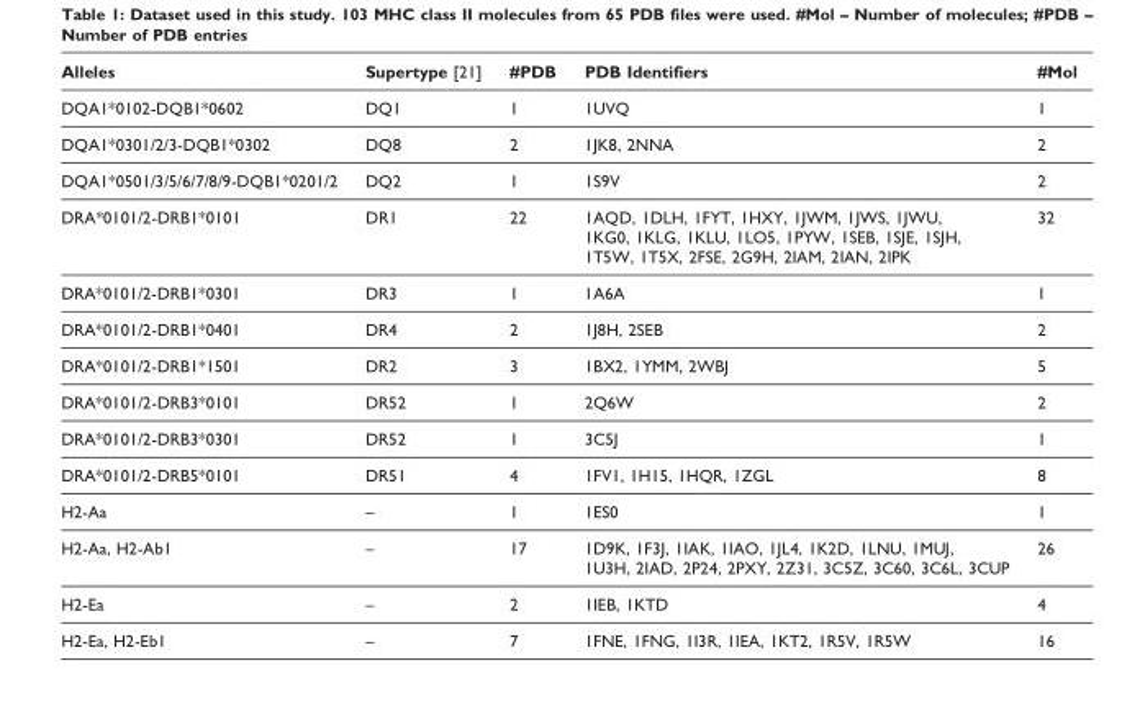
<table><thead><tr><td>Alleles</td><td>Supertype [21]</td><td>#PDB</td><td>PDB Identifiers</td><td>#Mol</td></tr></thead><tbody><tr><td>DQA1*0102-DQB1*0602</td><td>DQ1</td><td>1</td><td>1UVQ</td><td>1</td></tr><tr><td>DQA1*0301/2/3-DQB1*0302</td><td>DQ8</td><td>2</td><td>1JK8, 2NNA</td><td>2</td></tr><tr><td>DQA1*0501/3/5/6/7/8/9-DQB1*0201/2</td><td>DQ2</td><td>1</td><td>1S9V</td><td>2</td></tr><tr><td>DRA*0101/2-DRB1*0101</td><td>DR1</td><td>22</td><td>1AQD, 1DLH, 1FYT, 1HXY, 1JWM, 1JWS, 1JWU, 1KG0, 1KLG, 1KLU, 1LO5, 1PYW, 1SEB, 1SJE, 1SJH, 1T5W, 1T5X, 2FSE, 2G9H, 2IAM, 2IAN, 2IPK</td><td>32</td></tr><tr><td>DRA*0101/2-DRB1*0301</td><td>DR3</td><td>1</td><td>1A6A</td><td>1</td></tr><tr><td>DRA*0101/2-DRB1*0401</td><td>DR4</td><td>2</td><td>1J8H, 2SEB</td><td>2</td></tr><tr><td>DRA*0101/2-DRB1*1501</td><td>DR2</td><td>3</td><td>1BX2, 1YMM, 2WBJ</td><td>5</td></tr><tr><td>DRA*0101/2-DRB3*0101</td><td>DR52</td><td>1</td><td>2Q6W</td><td>2</td></tr><tr><td>DRA*0101/2-DRB3*0301</td><td>DR52</td><td>1</td><td>3C5J</td><td>1</td></tr><tr><td>DRA*0101/2-DRB5*0101</td><td>DR51</td><td>4</td><td>1FV1, 1H15, 1HQR, 1ZGL</td><td>8</td></tr><tr><td>H2-Aa</td><td>–</td><td>1</td><td>1ES0</td><td>1</td></tr><tr><td>H2-Aa, H2-Ab1</td><td>–</td><td>17</td><td>1D9K, 1F3J, 1IAK, 1IAO, 1JL4, 1K2D, 1LNU, 1MUJ, 1U3H, 2IAD, 2P24, 2PXY, 2Z31, 3C5Z, 3C60, 3C6L, 3CUP</td><td>26</td></tr><tr><td>H2-Ea</td><td>–</td><td>2</td><td>1IEB, 1KTD</td><td>4</td></tr><tr><td>H2-Ea, H2-Eb1</td><td>–</td><td>7</td><td>1FNE, 1FNG, 1I3R, 1IEA, 1KT2, 1R5V, 1R5W</td><td>16</td></tr></tbody></table>